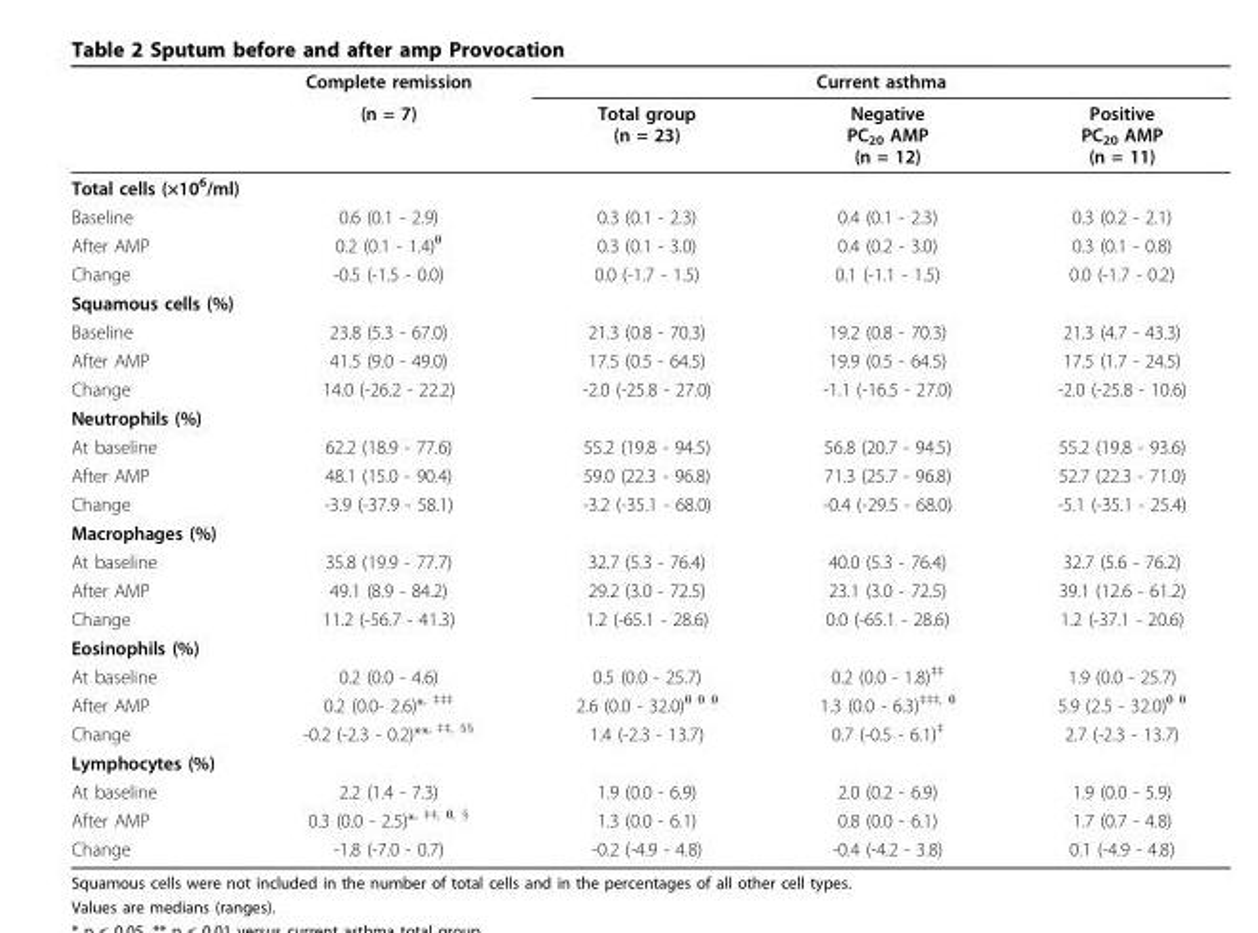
<table><thead><tr><td rowspan="2"></td><td rowspan="2">Complete remission (n = 7)</td><td colspan="3">Current asthma</td></tr><tr><td>Total group (n = 23)</td><td>Negative PC<sub>20</sub> AMP (n = 12)</td><td>Positive PC<sub>20</sub> AMP (n = 11)</td></tr></thead><tbody><tr><td colspan="5">Total cells (×10<sup>6</sup>/ml)</td></tr><tr><td>Baseline</td><td>0.6 (0.1 - 2.9)</td><td>0.3 (0.1 - 2.3)</td><td>0.4 (0.1 - 2.3)</td><td>0.3 (0.2 - 2.1)</td></tr><tr><td>After AMP</td><td>0.2 (0.1 - 1.4)<sup>θ</sup></td><td>0.3 (0.1 - 3.0)</td><td>0.4 (0.2 - 3.0)</td><td>0.3 (0.1 - 0.8)</td></tr><tr><td>Change</td><td>-0.5 (-1.5 - 0.0)</td><td>0.0 (-1.7 - 1.5)</td><td>0.1 (-1.1 - 1.5)</td><td>0.0 (-1.7 - 0.2)</td></tr><tr><td colspan="5">Squamous cells (%)</td></tr><tr><td>Baseline</td><td>23.8 (5.3 - 67.0)</td><td>21.3 (0.8 - 70.3)</td><td>19.2 (0.8 - 70.3)</td><td>21.3 (4.7 - 43.3)</td></tr><tr><td>After AMP</td><td>41.5 (9.0 - 49.0)</td><td>17.5 (0.5 - 64.5)</td><td>19.9 (0.5 - 64.5)</td><td>17.5 (1.7 - 24.5)</td></tr><tr><td>Change</td><td>14.0 (-26.2 - 22.2)</td><td>-2.0 (-25.8 - 27.0)</td><td>-1.1 (-16.5 - 27.0)</td><td>-2.0 (-25.8 - 10.6)</td></tr><tr><td colspan="5">Neutrophils (%)</td></tr><tr><td>At baseline</td><td>62.2 (18.9 - 77.6)</td><td>55.2 (19.8 - 94.5)</td><td>56.8 (20.7 - 94.5)</td><td>55.2 (19.8 - 93.6)</td></tr><tr><td>After AMP</td><td>48.1 (15.0 - 90.4)</td><td>59.0 (22.3 - 96.8)</td><td>71.3 (25.7 - 96.8)</td><td>52.7 (22.3 - 71.0)</td></tr><tr><td>Change</td><td>-3.9 (-37.9 - 58.1)</td><td>-3.2 (-35.1 - 68.0)</td><td>-0.4 (-29.5 - 68.0)</td><td>-5.1 (-35.1 - 25.4)</td></tr><tr><td colspan="5">Macrophages (%)</td></tr><tr><td>At baseline</td><td>35.8 (19.9 - 77.7)</td><td>32.7 (5.3 - 76.4)</td><td>40.0 (5.3 - 76.4)</td><td>32.7 (5.6 - 76.2)</td></tr><tr><td>After AMP</td><td>49.1 (8.9 - 84.2)</td><td>29.2 (3.0 - 72.5)</td><td>23.1 (3.0 - 72.5)</td><td>39.1 (12.6 - 61.2)</td></tr><tr><td>Change</td><td>11.2 (-56.7 - 41.3)</td><td>1.2 (-65.1 - 28.6)</td><td>0.0 (-65.1 - 28.6)</td><td>1.2 (-37.1 - 20.6)</td></tr><tr><td colspan="5">Eosinophils (%)</td></tr><tr><td>At baseline</td><td>0.2 (0.0 - 4.6)</td><td>0.5 (0.0 - 25.7)</td><td>0.2 (0.0 - 1.8)<sup>‡‡</sup></td><td>1.9 (0.0 - 25.7)</td></tr><tr><td>After AMP</td><td>0.2 (0.0- 2.6)*<sup>, ‡‡‡</sup></td><td>2.6 (0.0 - 32.0)<sup>θ θ θ</sup></td><td>1.3 (0.0 - 6.3)<sup>‡‡‡, θ</sup></td><td>5.9 (2.5 - 32.0)<sup>θ θ</sup></td></tr><tr><td>Change</td><td>-0.2 (-2.3 - 0.2)**<sup>, ‡‡, §§</sup></td><td>1.4 (-2.3 - 13.7)</td><td>0.7 (-0.5 - 6.1)<sup>‡</sup></td><td>2.7 (-2.3 - 13.7)</td></tr><tr><td colspan="5">Lymphocytes (%)</td></tr><tr><td>At baseline</td><td>2.2 (1.4 - 7.3)</td><td>1.9 (0.0 - 6.9)</td><td>2.0 (0.2 - 6.9)</td><td>1.9 (0.0 - 5.9)</td></tr><tr><td>After AMP</td><td>0.3 (0.0 - 2.5)*<sup>, ‡‡, θ, §</sup></td><td>1.3 (0.0 - 6.1)</td><td>0.8 (0.0 - 6.1)</td><td>1.7 (0.7 - 4.8)</td></tr><tr><td>Change</td><td>-1.8 (-7.0 - 0.7)</td><td>-0.2 (-4.9 - 4.8)</td><td>-0.4 (-4.2 - 3.8)</td><td>0.1 (-4.9 - 4.8)</td></tr></tbody></table>